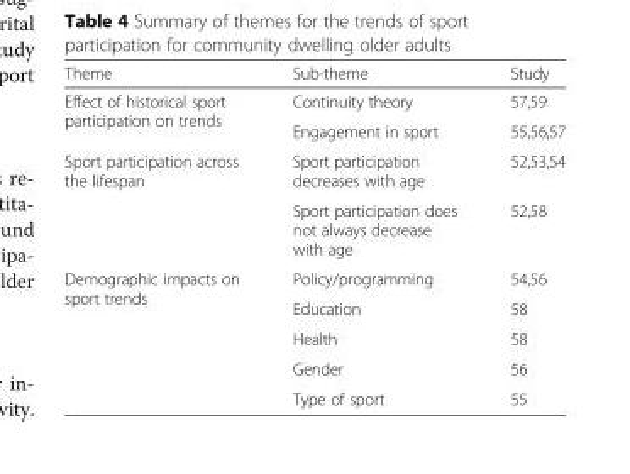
<table><thead><tr><td>Theme</td><td>Sub-theme</td><td>Study</td></tr></thead><tbody><tr><td rowspan="2">Effect of historical sport participation on trends</td><td>Continuity theory</td><td>57,59</td></tr><tr><td>Engagement in sport</td><td>55,56,57</td></tr><tr><td rowspan="2">Sport participation across the lifespan</td><td>Sport participation decreases with age</td><td>52,53,54</td></tr><tr><td>Sport participation does not always decrease with age</td><td>52,58</td></tr><tr><td rowspan="5">Demographic impacts on sport trends</td><td>Policy/programming</td><td>54,56</td></tr><tr><td>Education</td><td>58</td></tr><tr><td>Health</td><td>58</td></tr><tr><td>Gender</td><td>56</td></tr><tr><td>Type of sport</td><td>55</td></tr></tbody></table>